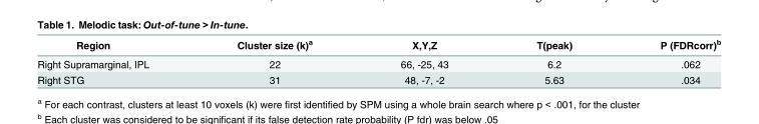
<table><thead><tr><td>Region</td><td>Cluster size (k)<sup>a</sup></td><td>X,Y,Z</td><td>T(peak)</td><td>P (FDRcorr)<sup>b</sup></td></tr></thead><tbody><tr><td>Right Supramarginal, IPL</td><td>22</td><td>66, -25, 43</td><td>6.2</td><td>.062</td></tr><tr><td>Right STG</td><td>31</td><td>48, -7, -2</td><td>5.63</td><td>.034</td></tr></tbody></table>